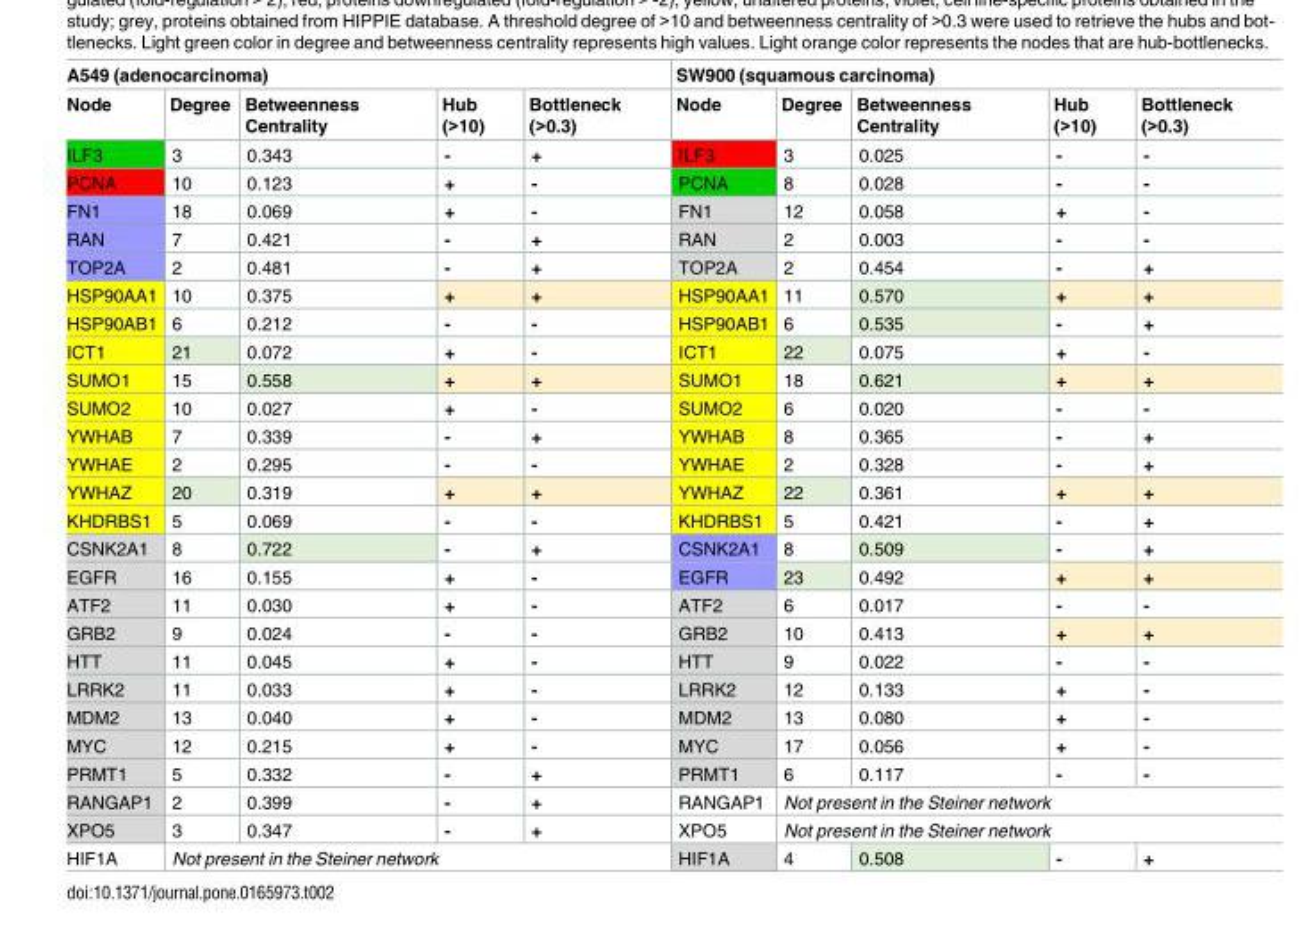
<table><thead><tr><td colspan="5">A549 (adenocarcinoma)</td><td colspan="5">SW900 (squamous carcinoma)</td></tr><tr><td>Node</td><td>Degree</td><td>Betweenness Centrality</td><td>Hub (&gt;10)</td><td>Bottleneck (&gt;0.3)</td><td>Node</td><td>Degree</td><td>Betweenness Centrality</td><td>Hub (&gt;10)</td><td>Bottleneck (&gt;0.3)</td></tr></thead><tbody><tr><td>ILF3</td><td>3</td><td>0.343</td><td>-</td><td>+</td><td>ILF3</td><td>3</td><td>0.025</td><td>-</td><td>-</td></tr><tr><td>PCNA</td><td>10</td><td>0.123</td><td>+</td><td>-</td><td>PCNA</td><td>8</td><td>0.028</td><td>-</td><td>-</td></tr><tr><td>FN1</td><td>18</td><td>0.069</td><td>+</td><td>-</td><td>FN1</td><td>12</td><td>0.058</td><td>+</td><td>-</td></tr><tr><td>RAN</td><td>7</td><td>0.421</td><td>-</td><td>+</td><td>RAN</td><td>2</td><td>0.003</td><td>-</td><td>-</td></tr><tr><td>TOP2A</td><td>2</td><td>0.481</td><td>-</td><td>+</td><td>TOP2A</td><td>2</td><td>0.454</td><td>-</td><td>+</td></tr><tr><td>HSP90AA1</td><td>10</td><td>0.375</td><td>+</td><td>+</td><td>HSP90AA1</td><td>11</td><td>0.570</td><td>+</td><td>+</td></tr><tr><td>HSP90AB1</td><td>6</td><td>0.212</td><td>-</td><td>-</td><td>HSP90AB1</td><td>6</td><td>0.535</td><td>-</td><td>+</td></tr><tr><td>ICT1</td><td>21</td><td>0.072</td><td>+</td><td>-</td><td>ICT1</td><td>22</td><td>0.075</td><td>+</td><td>-</td></tr><tr><td>SUMO1</td><td>15</td><td>0.558</td><td>+</td><td>+</td><td>SUMO1</td><td>18</td><td>0.621</td><td>+</td><td>+</td></tr><tr><td>SUMO2</td><td>10</td><td>0.027</td><td>+</td><td>-</td><td>SUMO2</td><td>6</td><td>0.020</td><td>-</td><td>-</td></tr><tr><td>YWHAB</td><td>7</td><td>0.339</td><td>-</td><td>+</td><td>YWHAB</td><td>8</td><td>0.365</td><td>-</td><td>+</td></tr><tr><td>YWHAE</td><td>2</td><td>0.295</td><td>-</td><td>-</td><td>YWHAE</td><td>2</td><td>0.328</td><td>-</td><td>+</td></tr><tr><td>YWHAZ</td><td>20</td><td>0.319</td><td>+</td><td>+</td><td>YWHAZ</td><td>22</td><td>0.361</td><td>+</td><td>+</td></tr><tr><td>KHDRBS1</td><td>5</td><td>0.069</td><td>-</td><td>-</td><td>KHDRBS1</td><td>5</td><td>0.421</td><td>-</td><td>+</td></tr><tr><td>CSNK2A1</td><td>8</td><td>0.722</td><td>-</td><td>+</td><td>CSNK2A1</td><td>8</td><td>0.509</td><td>-</td><td>+</td></tr><tr><td>EGFR</td><td>16</td><td>0.155</td><td>+</td><td>-</td><td>EGFR</td><td>23</td><td>0.492</td><td>+</td><td>+</td></tr><tr><td>ATF2</td><td>11</td><td>0.030</td><td>+</td><td>-</td><td>ATF2</td><td>6</td><td>0.017</td><td>-</td><td>-</td></tr><tr><td>GRB2</td><td>9</td><td>0.024</td><td>-</td><td>-</td><td>GRB2</td><td>10</td><td>0.413</td><td>+</td><td>+</td></tr><tr><td>HTT</td><td>11</td><td>0.045</td><td>+</td><td>-</td><td>HTT</td><td>9</td><td>0.022</td><td>-</td><td>-</td></tr><tr><td>LRRK2</td><td>11</td><td>0.033</td><td>+</td><td>-</td><td>LRRK2</td><td>12</td><td>0.133</td><td>+</td><td>-</td></tr><tr><td>MDM2</td><td>13</td><td>0.040</td><td>+</td><td>-</td><td>MDM2</td><td>13</td><td>0.080</td><td>+</td><td>-</td></tr><tr><td>MYC</td><td>12</td><td>0.215</td><td>+</td><td>-</td><td>MYC</td><td>17</td><td>0.056</td><td>+</td><td>-</td></tr><tr><td>PRMT1</td><td>5</td><td>0.332</td><td>-</td><td>+</td><td>PRMT1</td><td>6</td><td>0.117</td><td>-</td><td>-</td></tr><tr><td>RANGAP1</td><td>2</td><td>0.399</td><td>-</td><td>+</td><td>RANGAP1</td><td colspan="4">Not present in the Steiner network</td></tr><tr><td>XPO5</td><td>3</td><td>0.347</td><td>-</td><td>+</td><td>XPO5</td><td colspan="4">Not present in the Steiner network</td></tr><tr><td>HIF1A</td><td colspan="4">Not present in the Steiner network</td><td>HIF1A</td><td>4</td><td>0.508</td><td>-</td><td>+</td></tr></tbody></table>